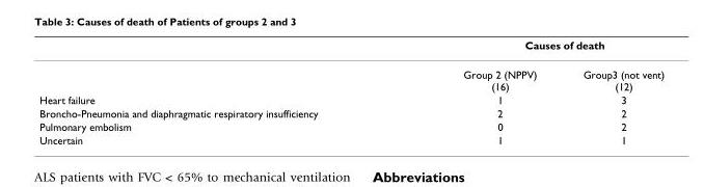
<table><thead><tr><td rowspan="2"></td><td colspan="2">Causes of death</td></tr><tr><td>Group 2 (NPPV) (16)</td><td>Group3 (not vent) (12)</td></tr></thead><tbody><tr><td>Heart failure</td><td>1</td><td>3</td></tr><tr><td>Broncho-Pneumonia and diaphragmatic respiratory insufficiency</td><td>2</td><td>2</td></tr><tr><td>Pulmonary embolism</td><td>0</td><td>2</td></tr><tr><td>Uncertain</td><td>1</td><td>1</td></tr></tbody></table>